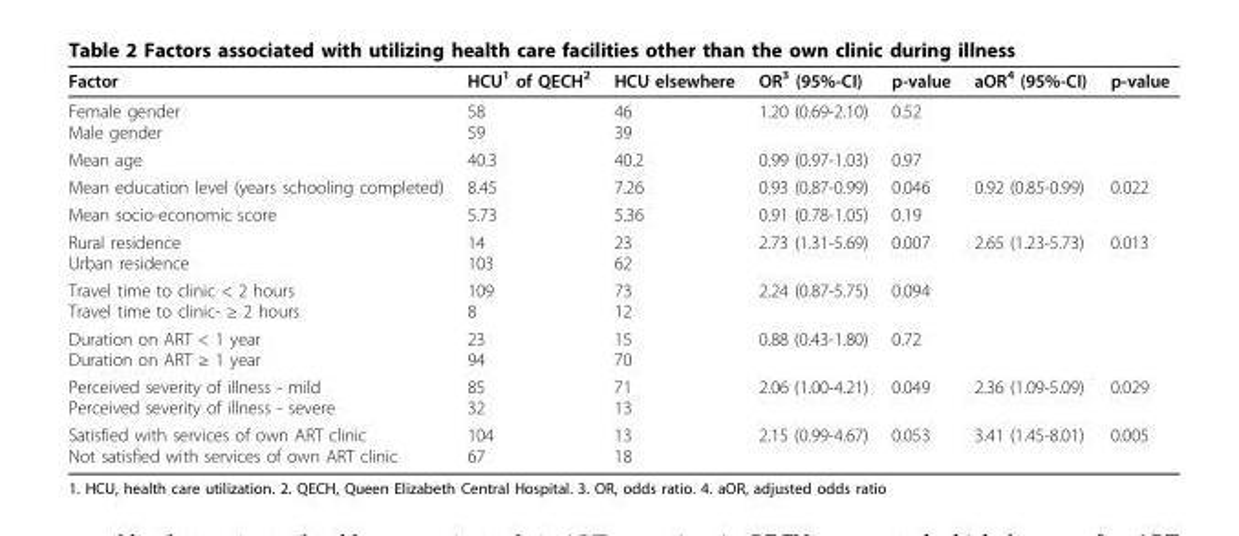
<table><thead><tr><td>Factor</td><td>HCU<sup>1</sup> of QECH<sup>2</sup></td><td>HCU elsewhere</td><td>OR<sup>3</sup> (95%-CI)</td><td>p-value</td><td>aOR<sup>4</sup> (95%-CI)</td><td>p-value</td></tr></thead><tbody><tr><td>Female gender Male gender</td><td>58 59</td><td>46 39</td><td>1.20 (0.69-2.10)</td><td>0.52</td><td></td><td></td></tr><tr><td>Mean age</td><td>40.3</td><td>40.2</td><td>0.99 (0.97-1.03)</td><td>0.97</td><td></td><td></td></tr><tr><td>Mean education level (years schooling completed)</td><td>8.45</td><td>7.26</td><td>0.93 (0.87-0.99)</td><td>0.046</td><td>0.92 (0.85-0.99)</td><td>0.022</td></tr><tr><td>Mean socio-economic score</td><td>5.73</td><td>5.36</td><td>0.91 (0.78-1.05)</td><td>0.19</td><td></td><td></td></tr><tr><td>Rural residence Urban residence</td><td>14 103</td><td>23 62</td><td>2.73 (1.31-5.69)</td><td>0.007</td><td>2.65 (1.23-5.73)</td><td>0.013</td></tr><tr><td>Travel time to clinic &lt; 2 hours Travel time to clinic- ≥ 2 hours</td><td>109 8</td><td>73 12</td><td>2.24 (0.87-5.75)</td><td>0.094</td><td></td><td></td></tr><tr><td>Duration on ART &lt; 1 year Duration on ART ≥ 1 year</td><td>23 94</td><td>15 70</td><td>0.88 (0.43-1.80)</td><td>0.72</td><td></td><td></td></tr><tr><td>Perceived severity of illness - mild Perceived severity of illness - severe</td><td>85 32</td><td>71 13</td><td>2.06 (1.00-4.21)</td><td>0.049</td><td>2.36 (1.09-5.09)</td><td>0.029</td></tr><tr><td>Satisfied with services of own ART clinic Not satisfied with services of own ART clinic</td><td>104 67</td><td>13 18</td><td>2.15 (0.99-4.67)</td><td>0.053</td><td>3.41 (1.45-8.01)</td><td>0.005</td></tr></tbody></table>